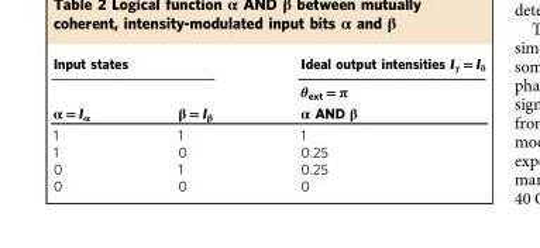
<table><thead><tr><td colspan="2">Input states</td><td rowspan="3">Ideal output intensities I<sub>γ</sub> = I<sub>δ</sub> θ<sub>ext</sub> = π α AND β</td></tr><tr><td rowspan="2">α = I<sub>α</sub></td><td rowspan="2">β = I<sub>β</sub></td></tr><tr></tr></thead><tbody><tr><td>1</td><td>1</td><td>1</td></tr><tr><td>1</td><td>0</td><td>0.25</td></tr><tr><td>0</td><td>1</td><td>0.25</td></tr><tr><td>0</td><td>0</td><td>0</td></tr></tbody></table>